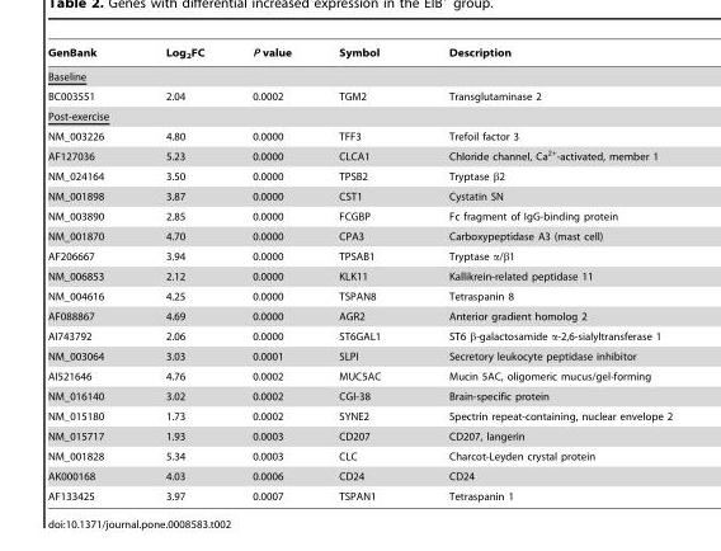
<table><thead><tr><td>GenBank</td><td>Log<sub>2</sub>FC</td><td>P value</td><td>Symbol</td><td>Description</td></tr></thead><tbody><tr><td colspan="5">Baseline</td></tr><tr><td>BC003551</td><td>2.04</td><td>0.0002</td><td>TGM2</td><td>Transglutaminase 2</td></tr><tr><td colspan="5">Post-exercise</td></tr><tr><td>NM_003226</td><td>4.80</td><td>0.0000</td><td>TFF3</td><td>Trefoil factor 3</td></tr><tr><td>AF127036</td><td>5.23</td><td>0.0000</td><td>CLCA1</td><td>Chloride channel, Ca<sup>2+</sup>-activated, member 1</td></tr><tr><td>NM_024164</td><td>3.50</td><td>0.0000</td><td>TPSB2</td><td>Tryptase β2</td></tr><tr><td>NM_001898</td><td>3.87</td><td>0.0000</td><td>CST1</td><td>Cystatin SN</td></tr><tr><td>NM_003890</td><td>2.85</td><td>0.0000</td><td>FCGBP</td><td>Fc fragment of IgG-binding protein</td></tr><tr><td>NM_001870</td><td>4.70</td><td>0.0000</td><td>CPA3</td><td>Carboxypeptidase A3 (mast cell)</td></tr><tr><td>AF206667</td><td>3.94</td><td>0.0000</td><td>TPSAB1</td><td>Tryptase α/β1</td></tr><tr><td>NM_006853</td><td>2.12</td><td>0.0000</td><td>KLK11</td><td>Kallikrein-related peptidase 11</td></tr><tr><td>NM_004616</td><td>4.25</td><td>0.0000</td><td>TSPAN8</td><td>Tetraspanin 8</td></tr><tr><td>AF088867</td><td>4.69</td><td>0.0000</td><td>AGR2</td><td>Anterior gradient homolog 2</td></tr><tr><td>AI743792</td><td>2.06</td><td>0.0000</td><td>ST6GAL1</td><td>ST6 β-galactosamide α-2,6-sialyltransferase 1</td></tr><tr><td>NM_003064</td><td>3.03</td><td>0.0001</td><td>SLPI</td><td>Secretory leukocyte peptidase inhibitor</td></tr><tr><td>AI521646</td><td>4.76</td><td>0.0002</td><td>MUC5AC</td><td>Mucin 5AC, oligomeric mucus/gel-forming</td></tr><tr><td>NM_016140</td><td>3.02</td><td>0.0002</td><td>CGI-38</td><td>Brain-specific protein</td></tr><tr><td>NM_015180</td><td>1.73</td><td>0.0002</td><td>SYNE2</td><td>Spectrin repeat-containing, nuclear envelope 2</td></tr><tr><td>NM_015717</td><td>1.93</td><td>0.0003</td><td>CD207</td><td>CD207, langerin</td></tr><tr><td>NM_001828</td><td>5.34</td><td>0.0003</td><td>CLC</td><td>Charcot-Leyden crystal protein</td></tr><tr><td>AK000168</td><td>4.03</td><td>0.0006</td><td>CD24</td><td>CD24</td></tr><tr><td>AF133425</td><td>3.97</td><td>0.0007</td><td>TSPAN1</td><td>Tetraspanin 1</td></tr></tbody></table>